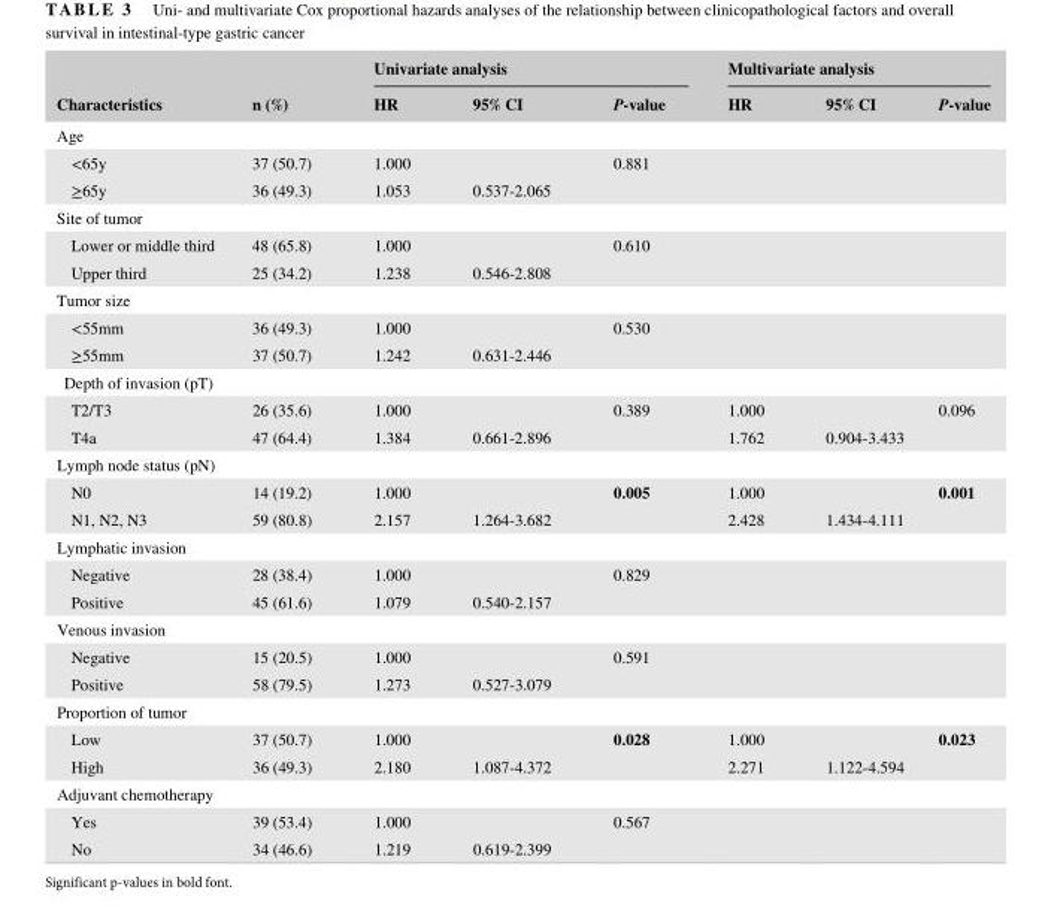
<table><thead><tr><td rowspan="2">Characteristics</td><td rowspan="2">n (%)</td><td colspan="3">Univariate analysis</td><td colspan="3">Multivariate analysis</td></tr><tr><td>HR</td><td>95% CI</td><td>P- value</td><td>HR</td><td>95% CI</td><td>P- value</td></tr></thead><tbody><tr><td colspan="8">Age</td></tr><tr><td>&lt;65y</td><td>37 (50.7)</td><td>1.000</td><td></td><td rowspan="2">0.881</td><td></td><td></td><td></td></tr><tr><td>≥65y</td><td>36 (49.3)</td><td>1.053</td><td>0.537- 2.065</td><td></td><td colspan="2"></td></tr><tr><td colspan="8">Site of tumor</td></tr><tr><td>Lower or middle third</td><td>48 (65.8)</td><td>1.000</td><td></td><td rowspan="2">0.610</td><td></td><td></td><td></td></tr><tr><td>Upper third</td><td>25 (34.2)</td><td>1.238</td><td>0.546- 2.808</td><td></td><td colspan="2"></td></tr><tr><td colspan="8">Tumor size</td></tr><tr><td>&lt;55mm</td><td>36 (49.3)</td><td>1.000</td><td></td><td rowspan="2">0.530</td><td></td><td></td><td></td></tr><tr><td>≥55mm</td><td>37 (50.7)</td><td>1.242</td><td>0.631- 2.446</td><td></td><td colspan="2"></td></tr><tr><td colspan="8">Depth of invasion (pT)</td></tr><tr><td>T2/T3</td><td>26 (35.6)</td><td>1.000</td><td></td><td rowspan="2">0.389</td><td>1.000</td><td></td><td rowspan="2">0.096</td></tr><tr><td>T4a</td><td>47 (64.4)</td><td>1.384</td><td>0.661- 2.896</td><td>1.762</td><td>0.904- 3.433</td></tr><tr><td colspan="8">Lymph node status (pN)</td></tr><tr><td>N0</td><td>14 (19.2)</td><td>1.000</td><td></td><td rowspan="2">0.005</td><td>1.000</td><td></td><td rowspan="2">0.001</td></tr><tr><td>N1, N2, N3</td><td>59 (80.8)</td><td>2.157</td><td>1.264- 3.682</td><td>2.428</td><td>1.434- 4.111</td></tr><tr><td colspan="8">Lymphatic invasion</td></tr><tr><td>Negative</td><td>28 (38.4)</td><td>1.000</td><td></td><td rowspan="2">0.829</td><td></td><td></td><td></td></tr><tr><td>Positive</td><td>45 (61.6)</td><td>1.079</td><td>0.540- 2.157</td><td></td><td colspan="2"></td></tr><tr><td colspan="8">Venous invasion</td></tr><tr><td>Negative</td><td>15 (20.5)</td><td>1.000</td><td></td><td rowspan="2">0.591</td><td></td><td></td><td></td></tr><tr><td>Positive</td><td>58 (79.5)</td><td>1.273</td><td>0.527- 3.079</td><td></td><td colspan="2"></td></tr><tr><td colspan="8">Proportion of tumor</td></tr><tr><td>Low</td><td>37 (50.7)</td><td>1.000</td><td></td><td rowspan="2">0.028</td><td>1.000</td><td></td><td rowspan="2">0.023</td></tr><tr><td>High</td><td>36 (49.3)</td><td>2.180</td><td>1.087- 4.372</td><td>2.271</td><td>1.122- 4.594</td></tr><tr><td colspan="8">Adjuvant chemotherapy</td></tr><tr><td>Yes</td><td>39 (53.4)</td><td>1.000</td><td></td><td rowspan="2">0.567</td><td></td><td colspan="2"></td></tr><tr><td>No</td><td>34 (46.6)</td><td>1.219</td><td>0.619- 2.399</td><td></td><td colspan="2"></td></tr></tbody></table>